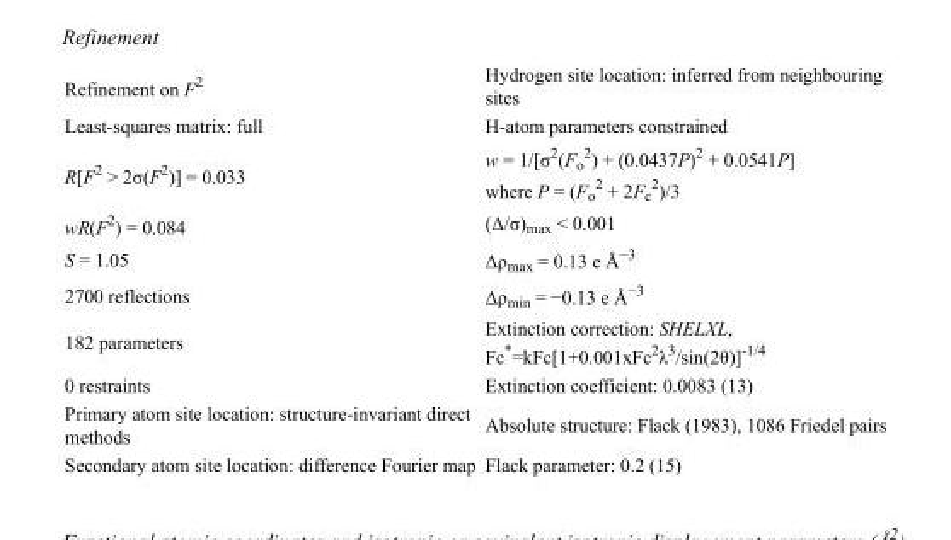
<table><tbody><tr><td>Refinement on F<sup>2</sup></td><td>Hydrogen site location: inferred from neighbouring sites</td></tr><tr><td>Least-squares matrix: full</td><td>H-atom parameters constrained</td></tr><tr><td>R[F<sup>2</sup> &gt; 2σ(F<sup>2</sup>)] = 0.033</td><td>w = 1/[σ<sup>2</sup>(F<sub>o</sub> <sup>2</sup>) + (0.0437P)<sup>2</sup> + 0.0541P] where P = (F<sub>o</sub> <sup>2</sup> + 2F<sub>c</sub> <sup>2</sup>)/3</td></tr><tr><td>wR(F<sup>2</sup>) = 0.084</td><td>(Δ/σ)<sub>max</sub> &lt; 0.001</td></tr><tr><td>S = 1.05</td><td>Δρ<sub>max</sub> = 0.13 e Å<sup>−3</sup></td></tr><tr><td>2700 reflections</td><td>Δρ<sub>min</sub> = −0.13 e Å<sup>−3</sup></td></tr><tr><td>182 parameters</td><td>Extinction correction: SHELXL, Fc*=kFc[1+0.001xFc<sup>2</sup>λ<sup>3</sup>/sin(2θ)]<sup>-1/4</sup></td></tr><tr><td>0 restraints</td><td>Extinction coefficient: 0.0083 (13)</td></tr><tr><td>Primary atom site location: structure-invariant direct methods</td><td>Absolute structure: Flack (1983), 1086 Friedel pairs</td></tr><tr><td>Secondary atom site location: difference Fourier map</td><td>Flack parameter: 0.2 (15)</td></tr></tbody></table>